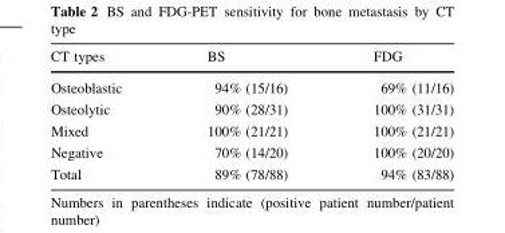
<table><thead><tr><td>CT types</td><td>BS</td><td>FDG</td></tr></thead><tbody><tr><td>Osteoblastic</td><td>94% (15/16)</td><td>69% (11/16)</td></tr><tr><td>Osteolytic</td><td>90% (28/31)</td><td>100% (31/31)</td></tr><tr><td>Mixed</td><td>100% (21/21)</td><td>100% (21/21)</td></tr><tr><td>Negative</td><td>70% (14/20)</td><td>100% (20/20)</td></tr><tr><td>Total</td><td>89% (78/88)</td><td>94% (83/88)</td></tr></tbody></table>